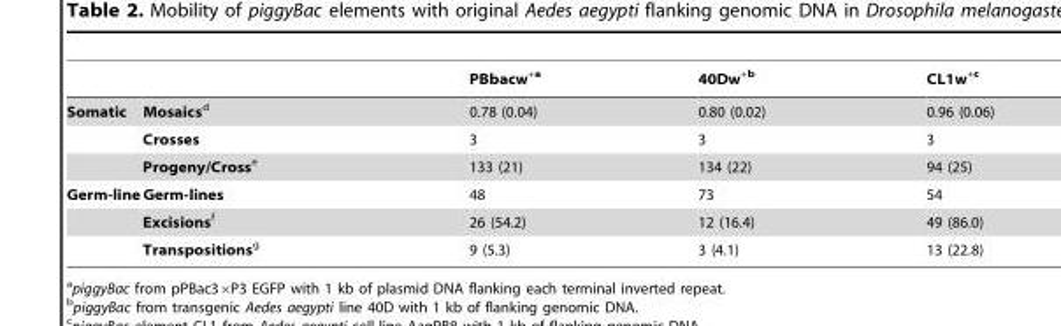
<table><thead><tr><td></td><td></td><td>PBbacw<sup>+a</sup></td><td>40Dw<sup>+b</sup></td><td>CL1w<sup>+c</sup></td></tr></thead><tbody><tr><td rowspan="3">Somatic</td><td>Mosaicsd</td><td>0.78 (0.04)</td><td>0.80 (0.02)</td><td>0.96 (0.06)</td></tr><tr><td>Crosses</td><td>3</td><td>3</td><td>3</td></tr><tr><td>Progeny/Crosse</td><td>133 (21)</td><td>134 (22)</td><td>94 (25)</td></tr><tr><td rowspan="3">Germ-line</td><td>Germ-lines</td><td>48</td><td>73</td><td>54</td></tr><tr><td>Excisionsf</td><td>26 (54.2)</td><td>12 (16.4)</td><td>49 (86.0)</td></tr><tr><td>Transpositionsg</td><td>9 (5.3)</td><td>3 (4.1)</td><td>13 (22.8)</td></tr></tbody></table>